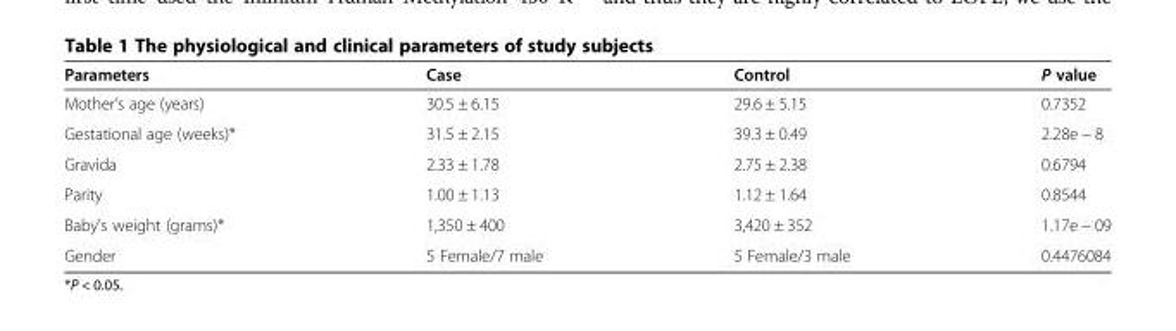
<table><thead><tr><td>Parameters</td><td>Case</td><td>Control</td><td>P value</td></tr></thead><tbody><tr><td>Mother’s age (years)</td><td>30.5 ± 6.15</td><td>29.6 ± 5.15</td><td>0.7352</td></tr><tr><td>Gestational age (weeks)*</td><td>31.5 ± 2.15</td><td>39.3 ± 0.49</td><td>2.28e − 8</td></tr><tr><td>Gravida</td><td>2.33 ± 1.78</td><td>2.75 ± 2.38</td><td>0.6794</td></tr><tr><td>Parity</td><td>1.00 ± 1.13</td><td>1.12 ± 1.64</td><td>0.8544</td></tr><tr><td>Baby’s weight (grams)*</td><td>1,350 ± 400</td><td>3,420 ± 352</td><td>1.17e − 09</td></tr><tr><td>Gender</td><td>5 Female/7 male</td><td>5 Female/3 male</td><td>0.4476084</td></tr></tbody></table>